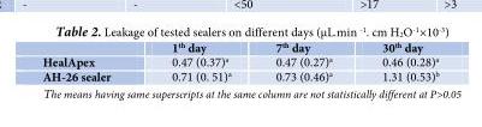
<table><thead><tr><td></td><td>1<sup>th</sup> day</td><td>7<sup>th</sup> day</td><td>30<sup>th</sup> day</td></tr></thead><tbody><tr><td>HealApex</td><td>0.47 (0.37)<sup>a</sup></td><td>0.47 (0.27)<sup>a</sup></td><td>0.46 (0.28)<sup>a</sup></td></tr><tr><td>AH-26 sealer</td><td>0.71 (0. 51)<sup>a</sup></td><td>0.73 (0.46)<sup>a</sup></td><td>1.31 (0.53)<sup>b</sup></td></tr></tbody></table>